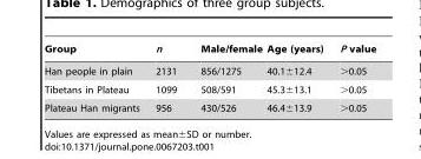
<table><thead><tr><td>Group</td><td>n</td><td>Male/female</td><td>Age (years)</td><td>P value</td></tr></thead><tbody><tr><td>Han people in plain</td><td>2131</td><td>856/1275</td><td>40.1±12.4</td><td>&gt;0.05</td></tr><tr><td>Tibetans in Plateau</td><td>1099</td><td>508/591</td><td>45.3±13.1</td><td>&gt;0.05</td></tr><tr><td>Plateau Han migrants</td><td>956</td><td>430/526</td><td>46.4±13.9</td><td>&gt;0.05</td></tr></tbody></table>